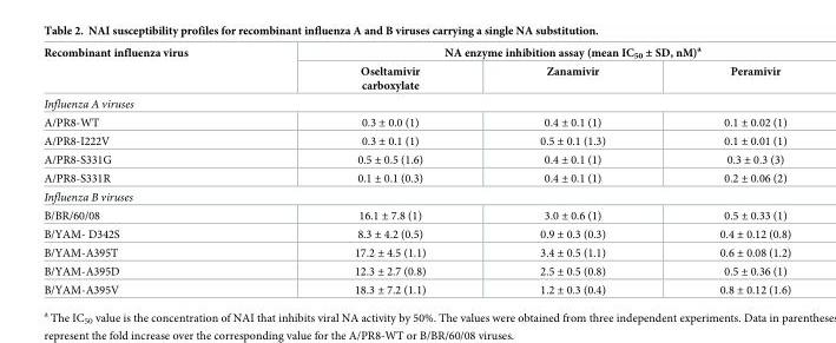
<table><thead><tr><td rowspan="2">Recombinant influenza virus</td><td colspan="3">NA enzyme inhibition assay (mean IC<sub>50</sub> ± SD, nM)<sup>a</sup></td></tr><tr><td>Oseltamivir carboxylate</td><td>Zanamivir</td><td>Peramivir</td></tr></thead><tbody><tr><td colspan="4">Influenza A viruses</td></tr><tr><td>A/PR8-WT</td><td>0.3 ± 0.0 (1)</td><td>0.4 ± 0.1 (1)</td><td>0.1 ± 0.02 (1)</td></tr><tr><td>A/PR8-I222V</td><td>0.3 ± 0.1 (1)</td><td>0.5 ± 0.1 (1.3)</td><td>0.1 ± 0.01 (1)</td></tr><tr><td>A/PR8-S331G</td><td>0.5 ± 0.5 (1.6)</td><td>0.4 ± 0.1 (1)</td><td>0.3 ± 0.3 (3)</td></tr><tr><td>A/PR8-S331R</td><td>0.1 ± 0.1 (0.3)</td><td>0.4 ± 0.1 (1)</td><td>0.2 ± 0.06 (2)</td></tr><tr><td colspan="4">Influenza B viruses</td></tr><tr><td>B/BR/60/08</td><td>16.1 ± 7.8 (1)</td><td>3.0 ± 0.6 (1)</td><td>0.5 ± 0.33 (1)</td></tr><tr><td>B/YAM- D342S</td><td>8.3 ± 4.2 (0.5)</td><td>0.9 ± 0.3 (0.3)</td><td>0.4 ± 0.12 (0.8)</td></tr><tr><td>B/YAM-A395T</td><td>17.2 ± 4.5 (1.1)</td><td>3.4 ± 0.5 (1.1)</td><td>0.6 ± 0.08 (1.2)</td></tr><tr><td>B/YAM-A395D</td><td>12.3 ± 2.7 (0.8)</td><td>2.5 ± 0.5 (0.8)</td><td>0.5 ± 0.36 (1)</td></tr><tr><td>B/YAM-A395V</td><td>18.3 ± 7.2 (1.1)</td><td>1.2 ± 0.3 (0.4)</td><td>0.8 ± 0.12 (1.6)</td></tr></tbody></table>